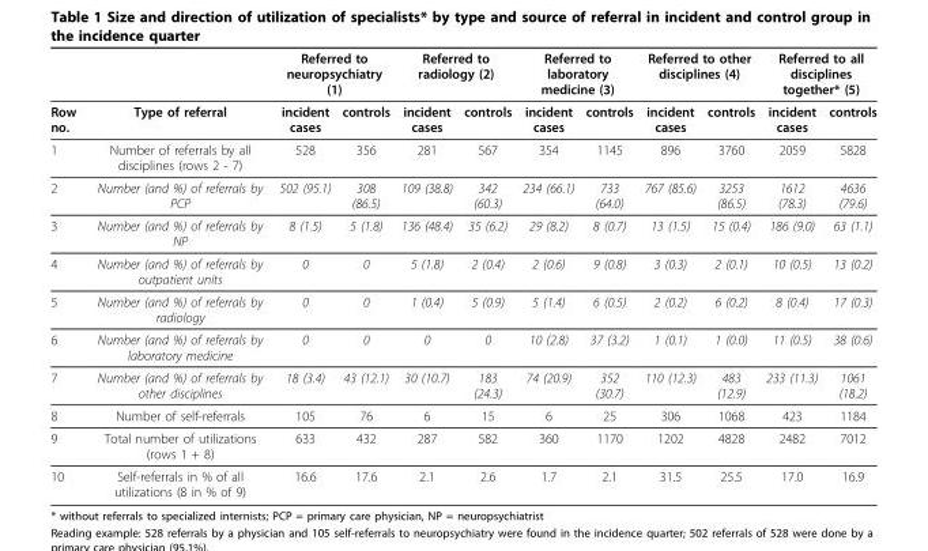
<table><thead><tr><td rowspan="2">Row no.</td><td rowspan="2">Type of referral</td><td colspan="2">Referred to neuropsychiatry (1)</td><td colspan="2">Referred to radiology (2)</td><td colspan="2">Referred to laboratory medicine (3)</td><td colspan="2">Referred to other disciplines (4)</td><td colspan="2">Referred to all disciplines together* (5)</td></tr><tr><td>incident cases</td><td>controls</td><td>incident cases</td><td>controls</td><td>incident cases</td><td>controls</td><td>incident cases</td><td>controls</td><td>incident cases</td><td>controls</td></tr></thead><tbody><tr><td>1</td><td>Number of referrals by all disciplines (rows 2 - 7)</td><td>528</td><td>356</td><td>281</td><td>567</td><td>354</td><td>1145</td><td>896</td><td>3760</td><td>2059</td><td>5828</td></tr><tr><td>2</td><td>Number (and %) of referrals by PCP</td><td>502 (95.1)</td><td>308 (86.5)</td><td>109 (38.8)</td><td>342 (60.3)</td><td>234 (66.1)</td><td>733 (64.0)</td><td>767 (85.6)</td><td>3253 (86.5)</td><td>1612 (78.3)</td><td>4636 (79.6)</td></tr><tr><td>3</td><td>Number (and %) of referrals by NP</td><td>8 (1.5)</td><td>5 (1.8)</td><td>136 (48.4)</td><td>35 (6.2)</td><td>29 (8.2)</td><td>8 (0.7)</td><td>13 (1.5)</td><td>15 (0.4)</td><td>186 (9.0)</td><td>63 (1.1)</td></tr><tr><td>4</td><td>Number (and %) of referrals by outpatient units</td><td>0</td><td>0</td><td>5 (1.8)</td><td>2 (0.4)</td><td>2 (0.6)</td><td>9 (0.8)</td><td>3 (0.3)</td><td>2 (0.1)</td><td>10 (0.5)</td><td>13 (0.2)</td></tr><tr><td>5</td><td>Number (and %) of referrals by radiology</td><td>0</td><td>0</td><td>1 (0.4)</td><td>5 (0.9)</td><td>5 (1.4)</td><td>6 (0.5)</td><td>2 (0.2)</td><td>6 (0.2)</td><td>8 (0.4)</td><td>17 (0.3)</td></tr><tr><td>6</td><td>Number (and %) of referrals by laboratory medicine</td><td>0</td><td>0</td><td>0</td><td>0</td><td>10 (2.8)</td><td>37 (3.2)</td><td>1 (0.1)</td><td>1 (0.0)</td><td>11 (0.5)</td><td>38 (0.6)</td></tr><tr><td>7</td><td>Number (and %) of referrals by other disciplines</td><td>18 (3.4)</td><td>43 (12.1)</td><td>30 (10.7)</td><td>183 (24.3)</td><td>74 (20.9)</td><td>352 (30.7)</td><td>110 (12.3)</td><td>483 (12.9)</td><td>233 (11.3)</td><td>1061 (18.2)</td></tr><tr><td>8</td><td>Number of self-referrals</td><td>105</td><td>76</td><td>6</td><td>15</td><td>6</td><td>25</td><td>306</td><td>1068</td><td>423</td><td>1184</td></tr><tr><td>9</td><td>Total number of utilizations (rows 1 + 8)</td><td>633</td><td>432</td><td>287</td><td>582</td><td>360</td><td>1170</td><td>1202</td><td>4828</td><td>2482</td><td>7012</td></tr><tr><td>10</td><td>Self-referrals in % of all utilizations (8 in % of 9)</td><td>16.6</td><td>17.6</td><td>2.1</td><td>2.6</td><td>1.7</td><td>2.1</td><td>31.5</td><td>25.5</td><td>17.0</td><td>16.9</td></tr></tbody></table>